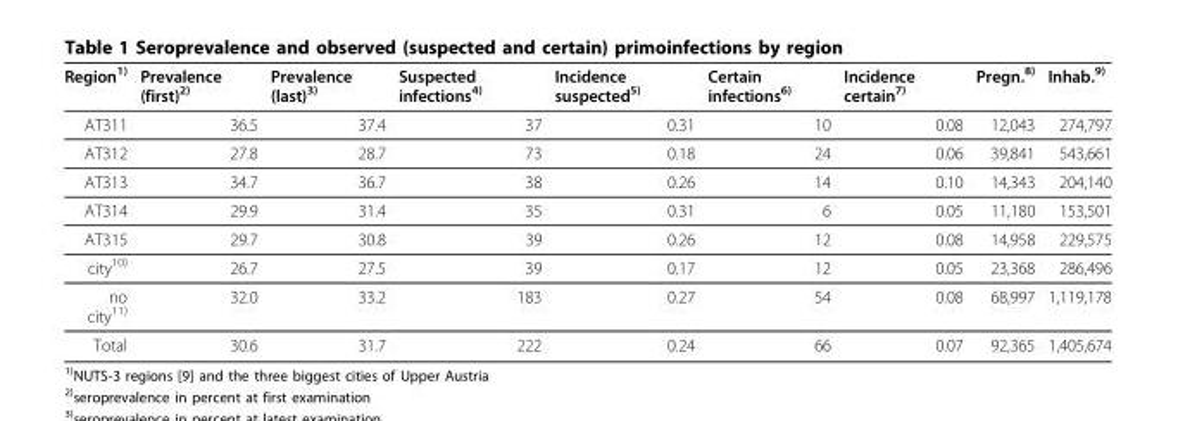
<table><thead><tr><td>Region<sup>1)</sup></td><td>Prevalence (first)<sup>2)</sup></td><td>Prevalence (last)<sup>3)</sup></td><td>Suspected infections<sup>4)</sup></td><td>Incidence suspected<sup>5)</sup></td><td>Certain infections<sup>6)</sup></td><td>Incidence certain<sup>7)</sup></td><td>Pregn.<sup>8)</sup></td><td>Inhab.<sup>9)</sup></td></tr></thead><tbody><tr><td>AT311</td><td>36.5</td><td>37.4</td><td>37</td><td>0.31</td><td>10</td><td>0.08</td><td>12,043</td><td>274,797</td></tr><tr><td>AT312</td><td>27.8</td><td>28.7</td><td>73</td><td>0.18</td><td>24</td><td>0.06</td><td>39,841</td><td>543,661</td></tr><tr><td>AT313</td><td>34.7</td><td>36.7</td><td>38</td><td>0.26</td><td>14</td><td>0.10</td><td>14,343</td><td>204,140</td></tr><tr><td>AT314</td><td>29.9</td><td>31.4</td><td>35</td><td>0.31</td><td>6</td><td>0.05</td><td>11,180</td><td>153,501</td></tr><tr><td>AT315</td><td>29.7</td><td>30.8</td><td>39</td><td>0.26</td><td>12</td><td>0.08</td><td>14,958</td><td>229,575</td></tr><tr><td>city<sup>10)</sup></td><td>26.7</td><td>27.5</td><td>39</td><td>0.17</td><td>12</td><td>0.05</td><td>23,368</td><td>286,496</td></tr><tr><td>no city<sup>11)</sup></td><td>32.0</td><td>33.2</td><td>183</td><td>0.27</td><td>54</td><td>0.08</td><td>68,997</td><td>1,119,178</td></tr><tr><td>Total</td><td>30.6</td><td>31.7</td><td>222</td><td>0.24</td><td>66</td><td>0.07</td><td>92,365</td><td>1,405,674</td></tr></tbody></table>